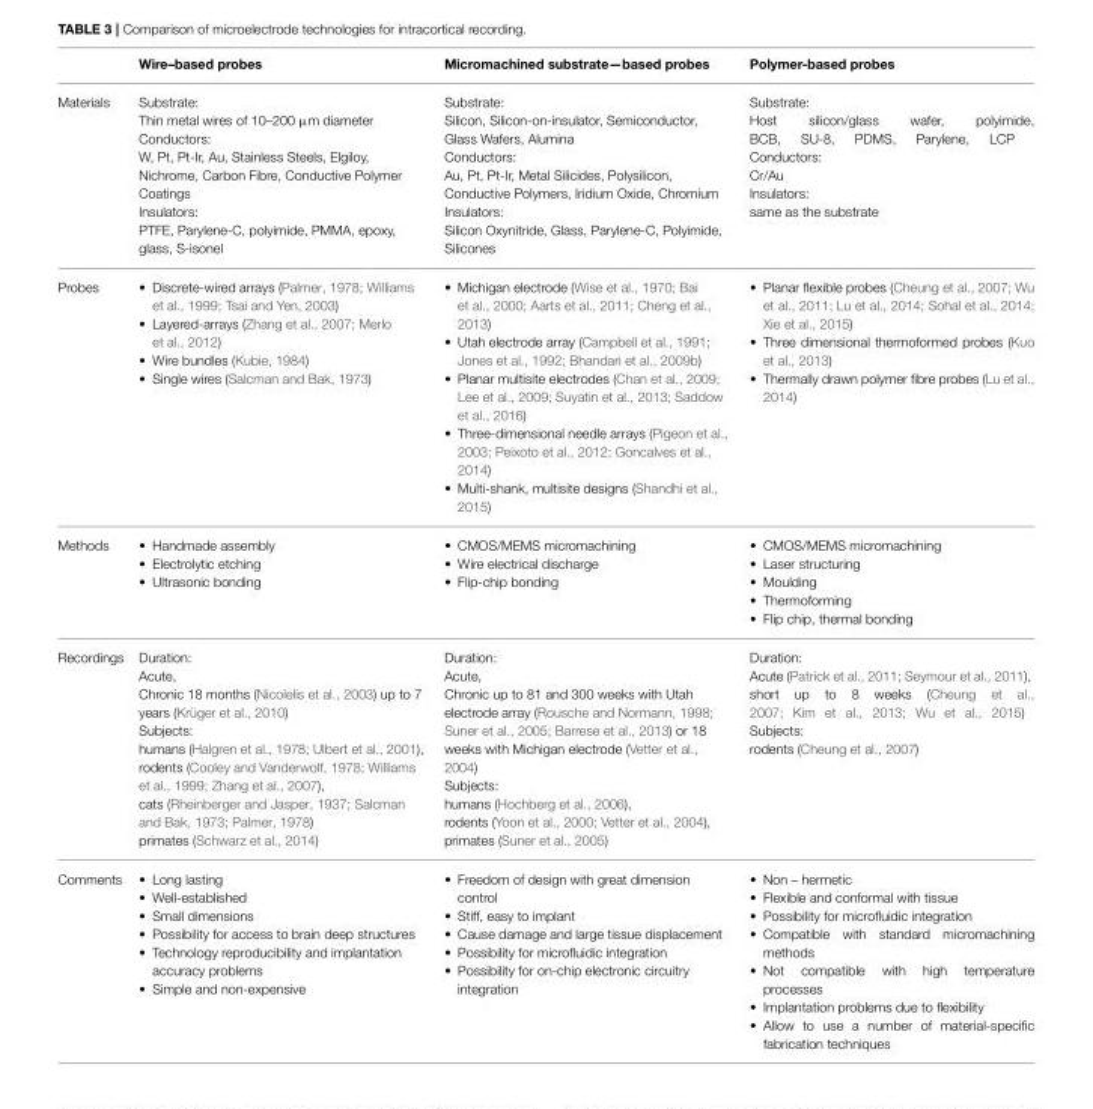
<table><thead><tr><td></td><td>Wire–based probes</td><td>Micromachined substrate—based probes</td><td>Polymer-based probes</td></tr></thead><tbody><tr><td>Materials</td><td>Substrate: Thin metal wires of 10–200 µm diameter Conductors: W, Pt, Pt-Ir, Au, Stainless Steels, Elgiloy, Nichrome, Carbon Fibre, Conductive Polymer Coatings Insulators: PTFE, Parylene-C, polyimide, PMMA, epoxy, glass, S-isonel</td><td>Substrate: Silicon, Silicon-on-insulator, Semiconductor, Glass Wafers, Alumina Conductors: Au, Pt, Pt-Ir, Metal Silicides, Polysilicon, Conductive Polymers, Iridium Oxide, Chromium Insulators: Silicon Oxynitride, Glass, Parylene-C, Polyimide, Silicones</td><td>Substrate: Host silicon/glass wafer, polyimide, BCB, SU-8, PDMS, Parylene, LCP Conductors: Cr/Au Insulators: same as the substrate</td></tr><tr><td>Probes</td><td>• Discrete-wired arrays (Palmer, 1978; Williams et al., 1999; Tsai and Yen, 2003) • Layered-arrays (Zhang et al., 2007; Merlo et al., 2012) • Wire bundles (Kubie, 1984) • Single wires (Salcman and Bak, 1973)</td><td>• Michigan electrode (Wise et al., 1970; Bai et al., 2000; Aarts et al., 2011; Cheng et al., 2013) • Utah electrode array (Campbell et al., 1991; Jones et al., 1992; Bhandari et al., 2009b) • Planar multisite electrodes (Chan et al., 2009; Lee et al., 2009; Suyatin et al., 2013; Saddow et al., 2016) • Three-dimensional needle arrays (Pigeon et al., 2003; Peixoto et al., 2012; Goncalves et al., 2014) • Multi-shank, multisite designs (Shandhi et al., 2015)</td><td>• Planar flexible probes (Cheung et al., 2007; Wu et al., 2011; Lu et al., 2014; Sohal et al., 2014; Xie et al., 2015) • Three dimensional thermoformed probes (Kuo et al., 2013) • Thermally drawn polymer fibre probes (Lu et al., 2014)</td></tr><tr><td>Methods</td><td>• Handmade assembly • Electrolytic etching • Ultrasonic bonding</td><td>• CMOS/MEMS micromachining • Wire electrical discharge • Flip-chip bonding</td><td>• CMOS/MEMS micromachining • Laser structuring • Moulding • Thermoforming • Flip chip, thermal bonding</td></tr><tr><td>Recordings</td><td>Duration: Acute, Chronic 18 months (Nicolelis et al., 2003) up to 7 years (Krüger et al., 2010) Subjects: humans (Halgren et al., 1978; Ulbert et al., 2001), rodents (Cooley and Vanderwolf, 1978; Williams et al., 1999; Zhang et al., 2007), cats (Rheinberger and Jasper, 1937; Salcman and Bak, 1973; Palmer, 1978) primates (Schwarz et al., 2014)</td><td>Duration: Acute, Chronic up to 81 and 300 weeks with Utah electrode array (Rousche and Normann, 1998; Suner et al., 2005; Barrese et al., 2013) or 18 weeks with Michigan electrode (Vetter et al., 2004) Subjects: humans (Hochberg et al., 2006), rodents (Yoon et al., 2000; Vetter et al., 2004), primates (Suner et al., 2005)</td><td>Duration: Acute (Patrick et al., 2011; Seymour et al., 2011), short up to 8 weeks (Cheung et al., 2007; Kim et al., 2013; Wu et al., 2015) Subjects: rodents (Cheung et al., 2007)</td></tr><tr><td>Comments</td><td>• Long lasting • Well-established • Small dimensions • Possibility for access to brain deep structures • Technology reproducibility and implantation accuracy problems • Simple and non-expensive</td><td>• Freedom of design with great dimension control • Stiff, easy to implant • Cause damage and large tissue displacement • Possibility for microfluidic integration • Possibility for on-chip electronic circuitry integration</td><td>• Non – hermetic • Flexible and conformal with tissue • Possibility for microfluidic integration • Compatible with standard micromachining methods • Not compatible with high temperature processes • Implantation problems due to flexibility • Allow to use a number of material-specific fabrication techniques</td></tr></tbody></table>